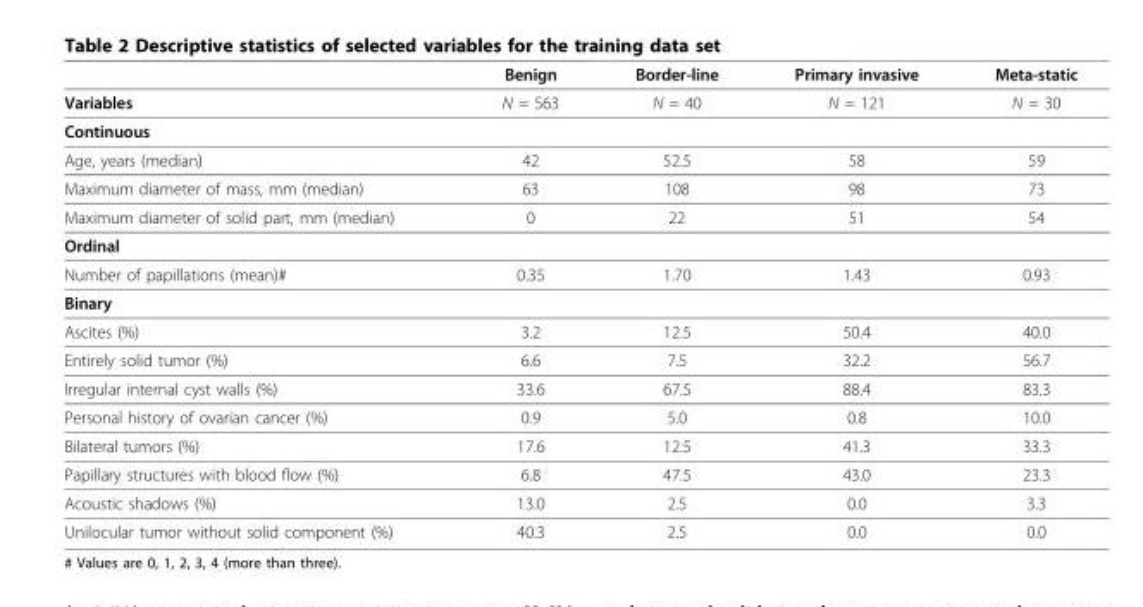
<table><thead><tr><td></td><td>Benign</td><td>Border-line</td><td>Primary invasive</td><td>Meta-static</td></tr></thead><tbody><tr><td>Variables</td><td>N = 563</td><td>N = 40</td><td>N = 121</td><td>N = 30</td></tr><tr><td colspan="5">Continuous</td></tr><tr><td>Age, years (median)</td><td>42</td><td>52.5</td><td>58</td><td>59</td></tr><tr><td>Maximum diameter of mass, mm (median)</td><td>63</td><td>108</td><td>98</td><td>73</td></tr><tr><td>Maximum diameter of solid part, mm (median)</td><td>0</td><td>22</td><td>51</td><td>54</td></tr><tr><td colspan="5">Ordinal</td></tr><tr><td>Number of papillations (mean)#</td><td>0.35</td><td>1.70</td><td>1.43</td><td>0.93</td></tr><tr><td colspan="5">Binary</td></tr><tr><td>Ascites (%)</td><td>3.2</td><td>12.5</td><td>50.4</td><td>40.0</td></tr><tr><td>Entirely solid tumor (%)</td><td>6.6</td><td>7.5</td><td>32.2</td><td>56.7</td></tr><tr><td>Irregular internal cyst walls (%)</td><td>33.6</td><td>67.5</td><td>88.4</td><td>83.3</td></tr><tr><td>Personal history of ovarian cancer (%)</td><td>0.9</td><td>5.0</td><td>0.8</td><td>10.0</td></tr><tr><td>Bilateral tumors (%)</td><td>17.6</td><td>12.5</td><td>41.3</td><td>33.3</td></tr><tr><td>Papillary structures with blood flow (%)</td><td>6.8</td><td>47.5</td><td>43.0</td><td>23.3</td></tr><tr><td>Acoustic shadows (%)</td><td>13.0</td><td>2.5</td><td>0.0</td><td>3.3</td></tr><tr><td>Unilocular tumor without solid component (%)</td><td>40.3</td><td>2.5</td><td>0.0</td><td>0.0</td></tr></tbody></table>